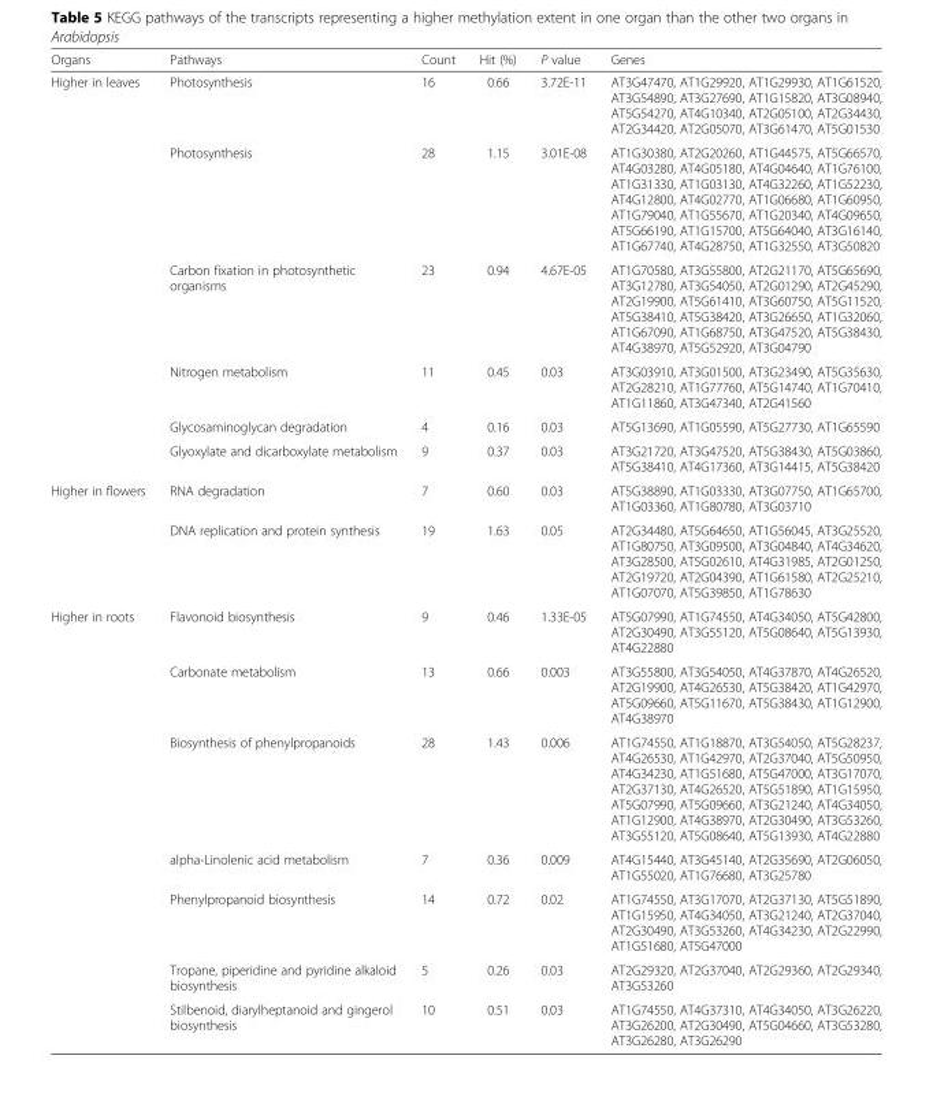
<table><thead><tr><td>Organs</td><td>Pathways</td><td>Count</td><td>Hit (%)</td><td>P value</td><td>Genes</td></tr></thead><tbody><tr><td rowspan="6">Higher in leaves</td><td>Photosynthesis</td><td>16</td><td>0.66</td><td>3.72E-11</td><td>AT3G47470, AT1G29920, AT1G29930, AT1G61520, AT3G54890, AT3G27690, AT1G15820, AT3G08940, AT5G54270, AT4G10340, AT2G05100, AT2G34430, AT2G34420, AT2G05070, AT3G61470, AT5G01530</td></tr><tr><td>Photosynthesis</td><td>28</td><td>1.15</td><td>3.01E-08</td><td>AT1G30380, AT2G20260, AT1G44575, AT5G66570, AT4G03280, AT4G05180, AT4G04640, AT1G76100, AT1G31330, AT1G03130, AT4G32260, AT1G52230, AT4G12800, AT4G02770, AT1G06680, AT1G60950, AT1G79040, AT1G55670, AT1G20340, AT4G09650, AT5G66190, AT1G15700, AT5G64040, AT3G16140, AT1G67740, AT4G28750, AT1G32550, AT3G50820</td></tr><tr><td>Carbon fixation in photosynthetic organisms</td><td>23</td><td>0.94</td><td>4.67E-05</td><td>AT1G70580, AT3G55800, AT2G21170, AT5G65690, AT3G12780, AT3G54050, AT2G01290, AT2G45290, AT2G19900, AT5G61410, AT3G60750, AT5G11520, AT5G38410, AT5G38420, AT3G26650, AT1G32060, AT1G67090, AT1G68750, AT3G47520, AT5G38430, AT4G38970, AT5G52920, AT3G04790</td></tr><tr><td>Nitrogen metabolism</td><td>11</td><td>0.45</td><td>0.03</td><td>AT3G03910, AT3G01500, AT3G23490, AT5G35630, AT2G28210, AT1G77760, AT5G14740, AT1G70410, AT1G11860, AT3G47340, AT2G41560</td></tr><tr><td>Glycosaminoglycan degradation</td><td>4</td><td>0.16</td><td>0.03</td><td>AT5G13690, AT1G05590, AT5G27730, AT1G65590</td></tr><tr><td>Glyoxylate and dicarboxylate metabolism</td><td>9</td><td>0.37</td><td>0.03</td><td>AT3G21720, AT3G47520, AT5G38430, AT5G03860, AT5G38410, AT4G17360, AT3G14415, AT5G38420</td></tr><tr><td rowspan="2">Higher in flowers</td><td>RNA degradation</td><td>7</td><td>0.60</td><td>0.03</td><td>AT5G38890, AT1G03330, AT3G07750, AT1G65700, AT1G03360, AT1G80780, AT3G03710</td></tr><tr><td>DNA replication and protein synthesis</td><td>19</td><td>1.63</td><td>0.05</td><td>AT2G34480, AT5G64650, AT1G56045, AT3G25520, AT1G80750, AT3G09500, AT3G04840, AT4G34620, AT3G28500, AT5G02610, AT4G31985, AT2G01250, AT2G19720, AT2G04390, AT1G61580, AT2G25210, AT1G07070, AT5G39850, AT1G78630</td></tr><tr><td rowspan="7">Higher in roots</td><td>Flavonoid biosynthesis</td><td>9</td><td>0.46</td><td>1.33E-05</td><td>AT5G07990, AT1G74550, AT4G34050, AT5G42800, AT2G30490, AT3G55120, AT5G08640, AT5G13930, AT4G22880</td></tr><tr><td>Carbonate metabolism</td><td>13</td><td>0.66</td><td>0.003</td><td>AT3G55800, AT3G54050, AT4G37870, AT4G26520, AT2G19900, AT4G26530, AT5G38420, AT1G42970, AT5G09660, AT5G11670, AT5G38430, AT1G12900, AT4G38970</td></tr><tr><td>Biosynthesis of phenylpropanoids</td><td>28</td><td>1.43</td><td>0.006</td><td>AT1G74550, AT1G18870, AT3G54050, AT5G28237, AT4G26530, AT1G42970, AT2G37040, AT5G50950, AT4G34230, AT1G51680, AT5G47000, AT3G17070, AT2G37130, AT4G26520, AT5G51890, AT1G15950, AT5G07990, AT5G09660, AT3G21240, AT4G34050, AT1G12900, AT4G38970, AT2G30490, AT3G53260, AT3G55120, AT5G08640, AT5G13930, AT4G22880</td></tr><tr><td>alpha-Linolenic acid metabolism</td><td>7</td><td>0.36</td><td>0.009</td><td>AT4G15440, AT3G45140, AT2G35690, AT2G06050, AT1G55020, AT1G76680, AT3G25780</td></tr><tr><td>Phenylpropanoid biosynthesis</td><td>14</td><td>0.72</td><td>0.02</td><td>AT1G74550, AT3G17070, AT2G37130, AT5G51890, AT1G15950, AT4G34050, AT3G21240, AT2G37040, AT2G30490, AT3G53260, AT4G34230, AT2G22990, AT1G51680, AT5G47000</td></tr><tr><td>Tropane, piperidine and pyridine alkaloid biosynthesis</td><td>5</td><td>0.26</td><td>0.03</td><td>AT2G29320, AT2G37040, AT2G29360, AT2G29340, AT3G53260</td></tr><tr><td>Stilbenoid, diarylheptanoid and gingerol biosynthesis</td><td>10</td><td>0.51</td><td>0.03</td><td>AT1G74550, AT4G37310, AT4G34050, AT3G26220, AT3G26200, AT2G30490, AT5G04660, AT3G53280, AT3G26280, AT3G26290</td></tr></tbody></table>